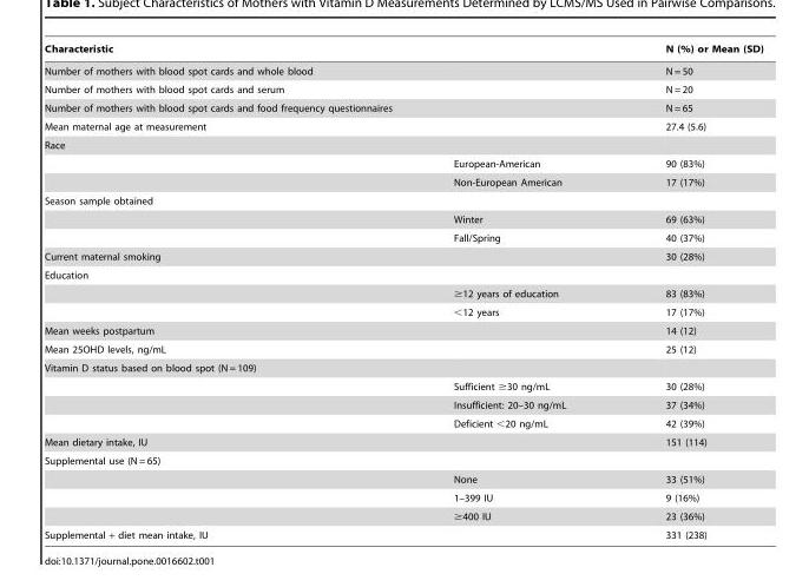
<table><thead><tr><td>Characteristic</td><td></td><td>N (%) or Mean (SD)</td></tr></thead><tbody><tr><td>Number of mothers with blood spot cards and whole blood</td><td></td><td>N = 50</td></tr><tr><td>Number of mothers with blood spot cards and serum</td><td></td><td>N = 20</td></tr><tr><td>Number of mothers with blood spot cards and food frequency questionnaires</td><td></td><td>N = 65</td></tr><tr><td>Mean maternal age at measurement</td><td></td><td>27.4 (5.6)</td></tr><tr><td colspan="3">Race</td></tr><tr><td></td><td>European-American</td><td>90 (83%)</td></tr><tr><td></td><td>Non-European American</td><td>17 (17%)</td></tr><tr><td colspan="3">Season sample obtained</td></tr><tr><td></td><td>Winter</td><td>69 (63%)</td></tr><tr><td></td><td>Fall/Spring</td><td>40 (37%)</td></tr><tr><td>Current maternal smoking</td><td></td><td>30 (28%)</td></tr><tr><td colspan="3">Education</td></tr><tr><td></td><td>≥12 years of education</td><td>83 (83%)</td></tr><tr><td></td><td>&lt;12 years</td><td>17 (17%)</td></tr><tr><td>Mean weeks postpartum</td><td></td><td>14 (12)</td></tr><tr><td>Mean 25OHD levels, ng/mL</td><td></td><td>25 (12)</td></tr><tr><td colspan="3">Vitamin D status based on blood spot (N = 109)</td></tr><tr><td></td><td>Sufficient ≥30 ng/mL</td><td>30 (28%)</td></tr><tr><td></td><td>Insufficient: 20–30 ng/mL</td><td>37 (34%)</td></tr><tr><td></td><td>Deficient &lt;20 ng/mL</td><td>42 (39%)</td></tr><tr><td>Mean dietary intake, IU</td><td></td><td>151 (114)</td></tr><tr><td colspan="3">Supplemental use (N = 65)</td></tr><tr><td></td><td>None</td><td>33 (51%)</td></tr><tr><td></td><td>1–399 IU</td><td>9 (16%)</td></tr><tr><td></td><td>≥400 IU</td><td>23 (36%)</td></tr><tr><td>Supplemental + diet mean intake, IU</td><td></td><td>331 (238)</td></tr></tbody></table>